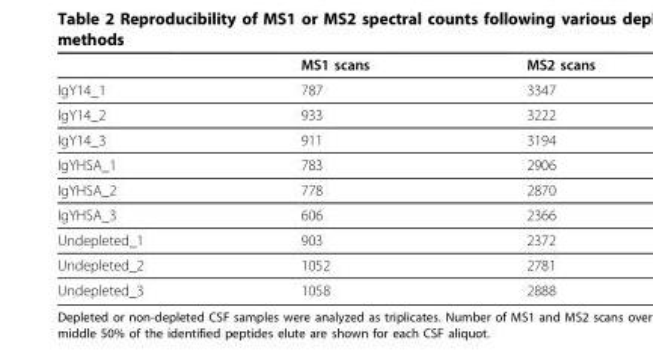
<table><thead><tr><td></td><td>MS1 scans</td><td>MS2 scans</td></tr></thead><tbody><tr><td>IgY14_1</td><td>787</td><td>3347</td></tr><tr><td>IgY14_2</td><td>933</td><td>3222</td></tr><tr><td>IgY14_3</td><td>911</td><td>3194</td></tr><tr><td>IgYHSA_1</td><td>783</td><td>2906</td></tr><tr><td>IgYHSA_2</td><td>778</td><td>2870</td></tr><tr><td>IgYHSA_3</td><td>606</td><td>2366</td></tr><tr><td>Undepleted_1</td><td>903</td><td>2372</td></tr><tr><td>Undepleted_2</td><td>1052</td><td>2781</td></tr><tr><td>Undepleted_3</td><td>1058</td><td>2888</td></tr></tbody></table>